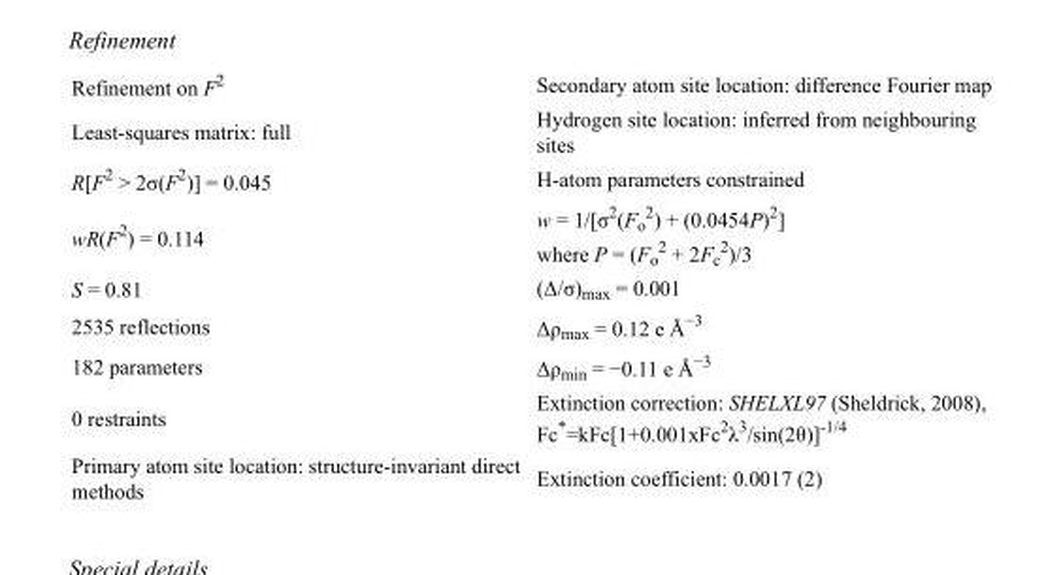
<table><tbody><tr><td>Refinement on F<sup>2</sup></td><td>Secondary atom site location: difference Fourier map</td></tr><tr><td>Least-squares matrix: full</td><td>Hydrogen site location: inferred from neighbouring sites</td></tr><tr><td>R[F<sup>2</sup> &gt; 2σ(F<sup>2</sup>)] = 0.045</td><td>H-atom parameters constrained</td></tr><tr><td>wR(F<sup>2</sup>) = 0.114</td><td>w = 1/[σ<sup>2</sup>(F<sub>o</sub> <sup>2</sup>) + (0.0454P)<sup>2</sup>] where P = (F<sub>o</sub> <sup>2</sup> + 2F<sub>c</sub> <sup>2</sup>)/3</td></tr><tr><td>S = 0.81</td><td>(Δ/σ)<sub>max</sub> = 0.001</td></tr><tr><td>2535 reflections</td><td>Δρ<sub>max</sub> = 0.12 e Å<sup>−3</sup></td></tr><tr><td>182 parameters</td><td>Δρ<sub>min</sub> = −0.11 e Å<sup>−3</sup></td></tr><tr><td>0 restraints</td><td>Extinction correction: SHELXL97 (Sheldrick, 2008), Fc*=kFc[1+0.001xFc<sup>2</sup>λ<sup>3</sup>/sin(2θ)]<sup>-1/4</sup></td></tr><tr><td>Primary atom site location: structure-invariant direct methods</td><td>Extinction coefficient: 0.0017 (2)</td></tr></tbody></table>